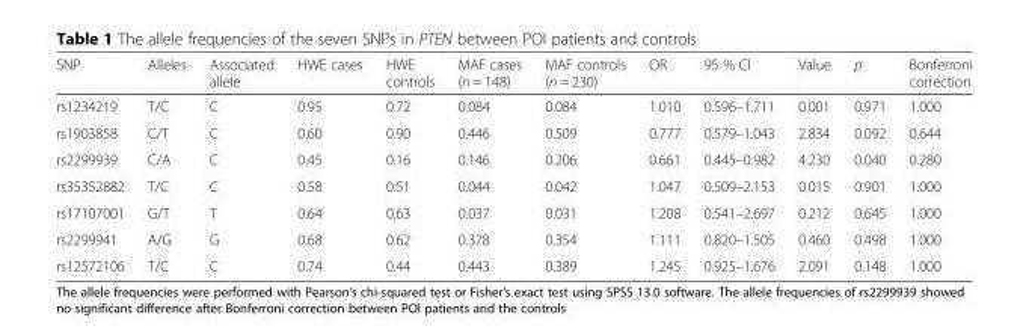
<table><thead><tr><td>SNP</td><td>Alleles</td><td>Associated allele</td><td>HWE cases</td><td>HWE controls</td><td>MAF cases (n = 148)</td><td>MAF controls (n = 230)</td><td>OR</td><td>95 % CI</td><td>Value</td><td>p</td><td>Bonferroni correction</td></tr></thead><tbody><tr><td>rs1234219</td><td>T/C</td><td>C</td><td>0.95</td><td>0.72</td><td>0.084</td><td>0.084</td><td>1.010</td><td>0.596–1.711</td><td>0.001</td><td>0.971</td><td>1.000</td></tr><tr><td>rs1903858</td><td>C/T</td><td>C</td><td>0.60</td><td>0.90</td><td>0.446</td><td>0.509</td><td>0.777</td><td>0.579–1.043</td><td>2.834</td><td>0.092</td><td>0.644</td></tr><tr><td>rs2299939</td><td>C/A</td><td>C</td><td>0.45</td><td>0.16</td><td>0.146</td><td>0.206</td><td>0.661</td><td>0.445–0.982</td><td>4.230</td><td>0.040</td><td>0.280</td></tr><tr><td>rs35352882</td><td>T/C</td><td>C</td><td>0.58</td><td>0.51</td><td>0.044</td><td>0.042</td><td>1.047</td><td>0.509–2.153</td><td>0.015</td><td>0.901</td><td>1.000</td></tr><tr><td>rs17107001</td><td>G/T</td><td>T</td><td>0.64</td><td>0.63</td><td>0.037</td><td>0.031</td><td>1.208</td><td>0.541–2.697</td><td>0.212</td><td>0.645</td><td>1.000</td></tr><tr><td>rs2299941</td><td>A/G</td><td>G</td><td>0.68</td><td>0.62</td><td>0.378</td><td>0.354</td><td>1.111</td><td>0.820–1.505</td><td>0.460</td><td>0.498</td><td>1.000</td></tr><tr><td>rs12572106</td><td>T/C</td><td>C</td><td>0.74</td><td>0.44</td><td>0.443</td><td>0.389</td><td>1.245</td><td>0.925–1.676</td><td>2.091</td><td>0.148</td><td>1.000</td></tr></tbody></table>